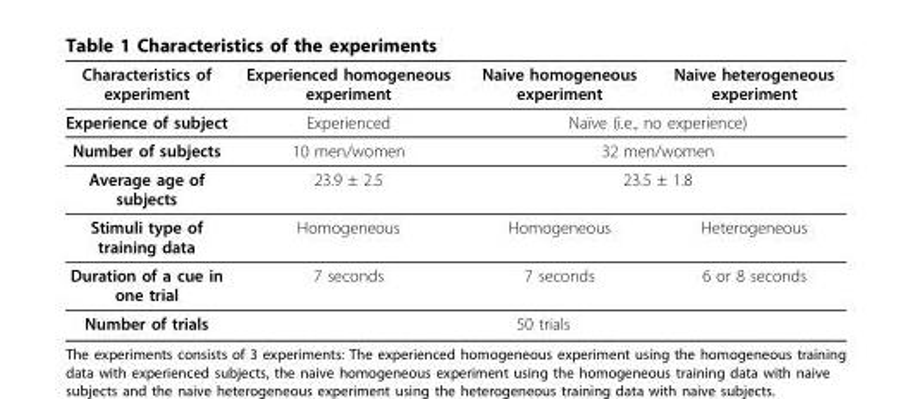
<table><thead><tr><td>Characteristics of experiment</td><td>Experienced homogeneous experiment</td><td>Naive homogeneous experiment</td><td>Naive heterogeneous experiment</td></tr></thead><tbody><tr><td>Experience of subject</td><td>Experienced</td><td colspan="2">Naïve (i.e., no experience)</td></tr><tr><td>Number of subjects</td><td>10 men/women</td><td colspan="2">32 men/women</td></tr><tr><td>Average age of subjects</td><td>23.9 ± 2.5</td><td colspan="2">23.5 ± 1.8</td></tr><tr><td>Stimuli type of training data</td><td>Homogeneous</td><td>Homogeneous</td><td>Heterogeneous</td></tr><tr><td>Duration of a cue in one trial</td><td>7 seconds</td><td>7 seconds</td><td>6 or 8 seconds</td></tr><tr><td>Number of trials</td><td colspan="3">50 trials</td></tr></tbody></table>